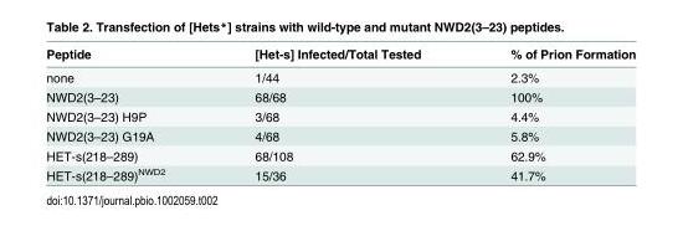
<table><thead><tr><td>Peptide</td><td>[Het-s] Infected/Total Tested</td><td>% of Prion Formation</td></tr></thead><tbody><tr><td>none</td><td>1/44</td><td>2.3%</td></tr><tr><td>NWD2(3–23)</td><td>68/68</td><td>100%</td></tr><tr><td>NWD2(3–23) H9P</td><td>3/68</td><td>4.4%</td></tr><tr><td>NWD2(3–23) G19A</td><td>4/68</td><td>5.8%</td></tr><tr><td>HET-s(218–289)</td><td>68/108</td><td>62.9%</td></tr><tr><td>HET-s(218–289)<sup>NWD2</sup></td><td>15/36</td><td>41.7%</td></tr></tbody></table>